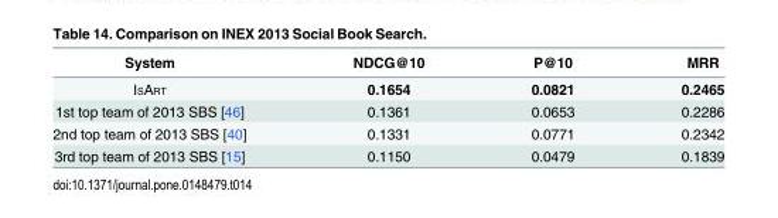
<table><thead><tr><td>System</td><td>NDCG@10</td><td>P@10</td><td>MRR</td></tr></thead><tbody><tr><td>ISART</td><td>0.1654</td><td>0.0821</td><td>0.2465</td></tr><tr><td>1st top team of 2013 SBS [46]</td><td>0.1361</td><td>0.0653</td><td>0.2286</td></tr><tr><td>2nd top team of 2013 SBS [40]</td><td>0.1331</td><td>0.0771</td><td>0.2342</td></tr><tr><td>3rd top team of 2013 SBS [15]</td><td>0.1150</td><td>0.0479</td><td>0.1839</td></tr></tbody></table>